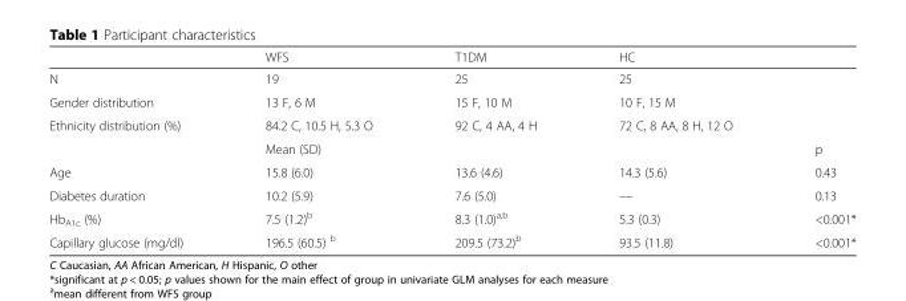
<table><thead><tr><td></td><td>WFS</td><td>T1DM</td><td>HC</td><td></td></tr></thead><tbody><tr><td>N</td><td>19</td><td>25</td><td>25</td><td></td></tr><tr><td>Gender distribution</td><td>13 F, 6 M</td><td>15 F, 10 M</td><td>10 F, 15 M</td><td></td></tr><tr><td rowspan="2">Ethnicity distribution (%)</td><td>84.2 C, 10.5 H, 5.3 O</td><td>92 C, 4 AA, 4 H</td><td>72 C, 8 AA, 8 H, 12 O</td><td></td></tr><tr><td>Mean (SD)</td><td></td><td></td><td>p</td></tr><tr><td>Age</td><td>15.8 (6.0)</td><td>13.6 (4.6)</td><td>14.3 (5.6)</td><td>0.43</td></tr><tr><td>Diabetes duration</td><td>10.2 (5.9)</td><td>7.6 (5.0)</td><td>––</td><td>0.13</td></tr><tr><td>Hb<sub>A1c</sub> (%)</td><td>7.5 (1.2)<sup>b</sup></td><td>8.3 (1.0)<sup>a,b</sup></td><td>5.3 (0.3)</td><td>&lt;0.001*</td></tr><tr><td>Capillary glucose (mg/dl)</td><td>196.5 (60.5) <sup>b</sup></td><td>209.5 (73.2)<sup>b</sup></td><td>93.5 (11.8)</td><td>&lt;0.001*</td></tr></tbody></table>